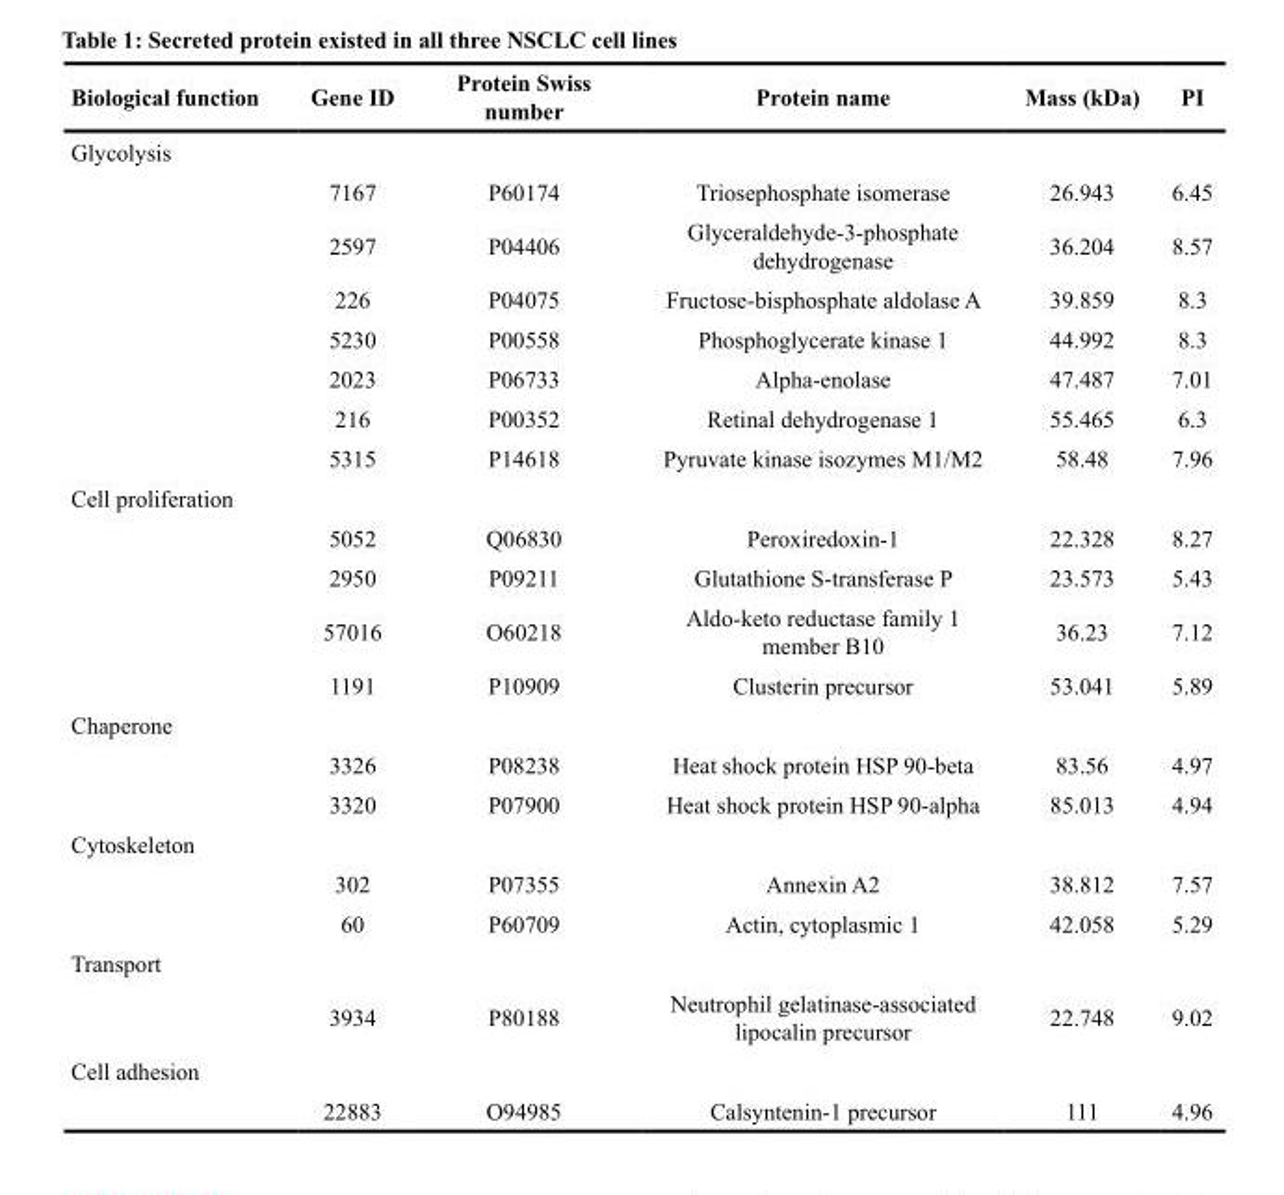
<table><thead><tr><td>Biological function</td><td>Gene ID</td><td>Protein Swiss number</td><td>Protein name</td><td>Mass (kDa)</td><td>PI</td></tr></thead><tbody><tr><td colspan="6">Glycolysis</td></tr><tr><td></td><td>7167</td><td>P60174</td><td>Triosephosphate isomerase</td><td>26.943</td><td>6.45</td></tr><tr><td></td><td>2597</td><td>P04406</td><td>Glyceraldehyde-3-phosphate dehydrogenase</td><td>36.204</td><td>8.57</td></tr><tr><td></td><td>226</td><td>P04075</td><td>Fructose-bisphosphate aldolase A</td><td>39.859</td><td>8.3</td></tr><tr><td></td><td>5230</td><td>P00558</td><td>Phosphoglycerate kinase 1</td><td>44.992</td><td>8.3</td></tr><tr><td></td><td>2023</td><td>P06733</td><td>Alpha-enolase</td><td>47.487</td><td>7.01</td></tr><tr><td></td><td>216</td><td>P00352</td><td>Retinal dehydrogenase 1</td><td>55.465</td><td>6.3</td></tr><tr><td></td><td>5315</td><td>P14618</td><td>Pyruvate kinase isozymes M1/M2</td><td>58.48</td><td>7.96</td></tr><tr><td colspan="6">Cell proliferation</td></tr><tr><td></td><td>5052</td><td>Q06830</td><td>Peroxiredoxin-1</td><td>22.328</td><td>8.27</td></tr><tr><td></td><td>2950</td><td>P09211</td><td>Glutathione S-transferase P</td><td>23.573</td><td>5.43</td></tr><tr><td></td><td>57016</td><td>O60218</td><td>Aldo-keto reductase family 1 member B10</td><td>36.23</td><td>7.12</td></tr><tr><td></td><td>1191</td><td>P10909</td><td>Clusterin precursor</td><td>53.041</td><td>5.89</td></tr><tr><td colspan="6">Chaperone</td></tr><tr><td></td><td>3326</td><td>P08238</td><td>Heat shock protein HSP 90-beta</td><td>83.56</td><td>4.97</td></tr><tr><td></td><td>3320</td><td>P07900</td><td>Heat shock protein HSP 90-alpha</td><td>85.013</td><td>4.94</td></tr><tr><td colspan="6">Cytoskeleton</td></tr><tr><td></td><td>302</td><td>P07355</td><td>Annexin A2</td><td>38.812</td><td>7.57</td></tr><tr><td></td><td>60</td><td>P60709</td><td>Actin, cytoplasmic 1</td><td>42.058</td><td>5.29</td></tr><tr><td colspan="6">Transport</td></tr><tr><td></td><td>3934</td><td>P80188</td><td>Neutrophil gelatinase-associated lipocalin precursor</td><td>22.748</td><td>9.02</td></tr><tr><td colspan="6">Cell adhesion</td></tr><tr><td></td><td>22883</td><td>O94985</td><td>Calsyntenin-1 precursor</td><td>111</td><td>4.96</td></tr></tbody></table>